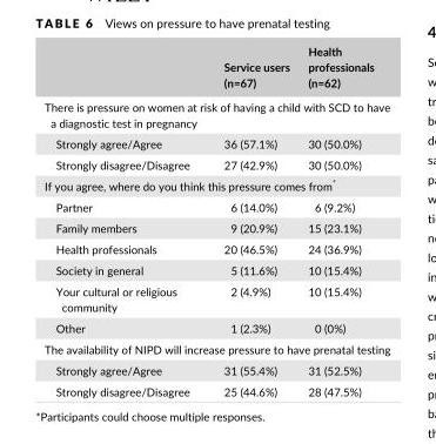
<table><thead><tr><td></td><td>Service users (n=67)</td><td>Health professionals (n=62)</td></tr></thead><tbody><tr><td colspan="3">There is pressure on women at risk of having a child with SCD to have a diagnostic test in pregnancy</td></tr><tr><td>Strongly agree/Agree</td><td>36 (57.1%)</td><td>30 (50.0%)</td></tr><tr><td>Strongly disagree/Disagree</td><td>27 (42.9%)</td><td>30 (50.0%)</td></tr><tr><td colspan="3">If you agree, where do you think this pressure comes from*</td></tr><tr><td>Partner</td><td>6 (14.0%)</td><td>6 (9.2%)</td></tr><tr><td>Family members</td><td>9 (20.9%)</td><td>15 (23.1%)</td></tr><tr><td>Health professionals</td><td>20 (46.5%)</td><td>24 (36.9%)</td></tr><tr><td>Society in general</td><td>5 (11.6%)</td><td>10 (15.4%)</td></tr><tr><td>Your cultural or religious community</td><td>2 (4.9%)</td><td>10 (15.4%)</td></tr><tr><td>Other</td><td>1 (2.3%)</td><td>0 (0%)</td></tr><tr><td colspan="3">The availability of NIPD will increase pressure to have prenatal testing</td></tr><tr><td>Strongly agree/Agree</td><td>31 (55.4%)</td><td>31 (52.5%)</td></tr><tr><td>Strongly disagree/Disagree</td><td>25 (44.6%)</td><td>28 (47.5%)</td></tr></tbody></table>